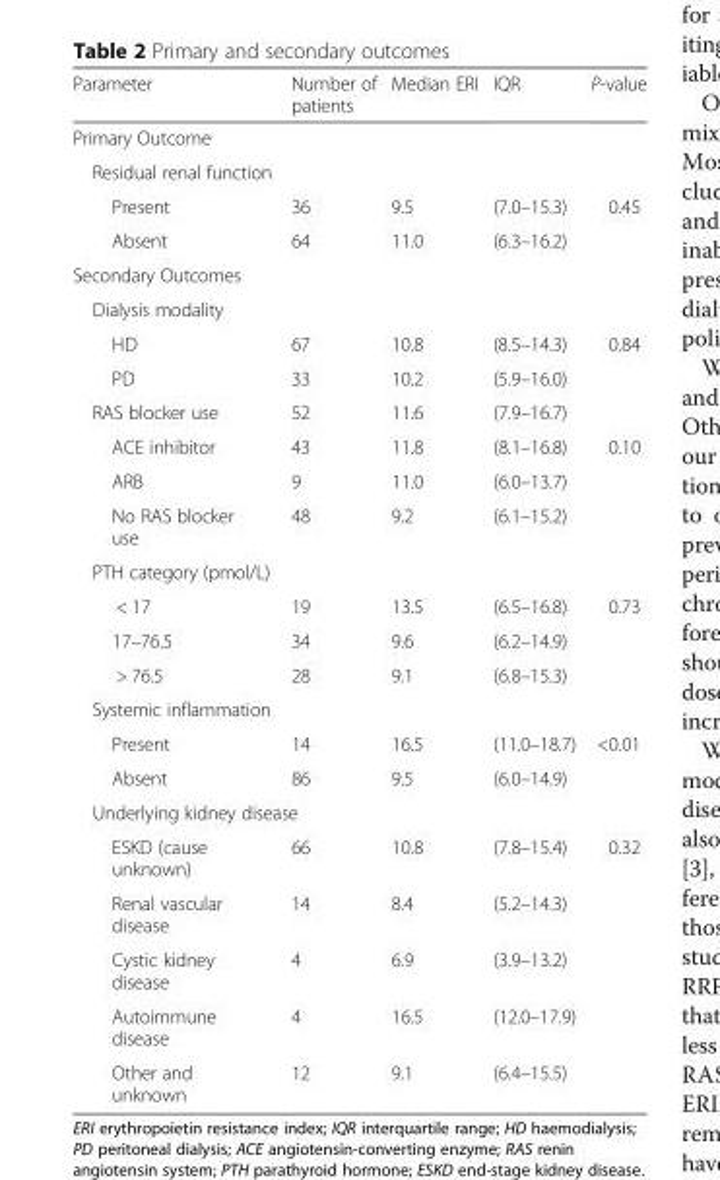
<table><thead><tr><td>Parameter</td><td>Number of patients</td><td>Median ERI</td><td>IQR</td><td>P-value</td></tr></thead><tbody><tr><td colspan="5">Primary Outcome</td></tr><tr><td colspan="5">Residual renal function</td></tr><tr><td>Present</td><td>36</td><td>9.5</td><td>(7.0–15.3)</td><td rowspan="2">0.45</td></tr><tr><td>Absent</td><td>64</td><td>11.0</td><td>(6.3–16.2)</td></tr><tr><td colspan="5">Secondary Outcomes</td></tr><tr><td colspan="5">Dialysis modality</td></tr><tr><td>HD</td><td>67</td><td>10.8</td><td>(8.5–14.3)</td><td rowspan="2">0.84</td></tr><tr><td>PD</td><td>33</td><td>10.2</td><td>(5.9–16.0)</td></tr><tr><td>RAS blocker use</td><td>52</td><td>11.6</td><td>(7.9–16.7)</td><td></td></tr><tr><td>ACE inhibitor</td><td>43</td><td>11.8</td><td>(8.1–16.8)</td><td rowspan="3">0.10</td></tr><tr><td>ARB</td><td>9</td><td>11.0</td><td>(6.0–13.7)</td></tr><tr><td>No RAS blocker use</td><td>48</td><td>9.2</td><td>(6.1–15.2)</td></tr><tr><td colspan="5">PTH category (pmol/L)</td></tr><tr><td>&lt; 17</td><td>19</td><td>13.5</td><td>(6.5–16.8)</td><td rowspan="3">0.73</td></tr><tr><td>17–76.5</td><td>34</td><td>9.6</td><td>(6.2–14.9)</td></tr><tr><td>&gt; 76.5</td><td>28</td><td>9.1</td><td>(6.8–15.3)</td></tr><tr><td colspan="5">Systemic inflammation</td></tr><tr><td>Present</td><td>14</td><td>16.5</td><td>(11.0–18.7)</td><td rowspan="2">&lt;0.01</td></tr><tr><td>Absent</td><td>86</td><td>9.5</td><td>(6.0–14.9)</td></tr><tr><td colspan="5">Underlying kidney disease</td></tr><tr><td>ESKD (cause unknown)</td><td>66</td><td>10.8</td><td>(7.8–15.4)</td><td rowspan="5">0.32</td></tr><tr><td>Renal vascular disease</td><td>14</td><td>8.4</td><td>(5.2–14.3)</td></tr><tr><td>Cystic kidney disease</td><td>4</td><td>6.9</td><td>(3.9–13.2)</td></tr><tr><td>Autoimmune disease</td><td>4</td><td>16.5</td><td>(12.0–17.9)</td></tr><tr><td>Other and unknown</td><td>12</td><td>9.1</td><td>(6.4–15.5)</td></tr></tbody></table>